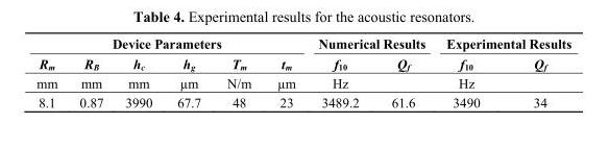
<table><thead><tr><td colspan="6">Device Parameters</td><td colspan="2">Numerical Results</td><td colspan="2">Experimental Results</td></tr><tr><td>R<sub>m</sub></td><td>R<sub>B</sub></td><td>h<sub>c</sub></td><td>h<sub>g</sub></td><td>T<sub>m</sub></td><td>t<sub>m</sub></td><td>f<sub>10</sub></td><td>Q<sub>f</sub></td><td>f<sub>10</sub></td><td>Q<sub>f</sub></td></tr></thead><tbody><tr><td>mm</td><td>mm</td><td>mm</td><td>µm</td><td>N/m</td><td>µm</td><td>Hz</td><td></td><td>Hz</td><td></td></tr><tr><td>8.1</td><td>0.87</td><td>3990</td><td>67.7</td><td>48</td><td>23</td><td>3489.2</td><td>61.6</td><td>3490</td><td>34</td></tr></tbody></table>